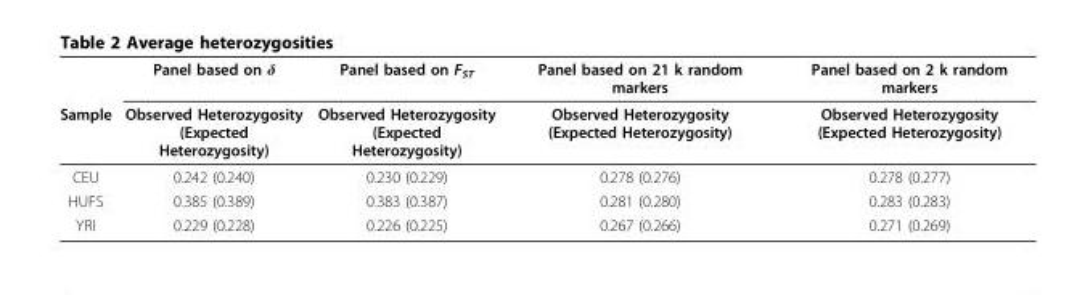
<table><thead><tr><td rowspan="2">Sample</td><td rowspan="2">Panel based on δ Observed Heterozygosity (Expected Heterozygosity)</td><td rowspan="2">Panel based on F<sub>ST</sub> Observed Heterozygosity (Expected Heterozygosity)</td><td rowspan="2">Panel based on 21 k random markers Observed Heterozygosity (Expected Heterozygosity)</td><td rowspan="2">Panel based on 2 k random markers Observed Heterozygosity (Expected Heterozygosity)</td></tr><tr></tr></thead><tbody><tr><td>CEU</td><td>0.242 (0.240)</td><td>0.230 (0.229)</td><td>0.278 (0.276)</td><td>0.278 (0.277)</td></tr><tr><td>HUFS</td><td>0.385 (0.389)</td><td>0.383 (0.387)</td><td>0.281 (0.280)</td><td>0.283 (0.283)</td></tr><tr><td>YRI</td><td>0.229 (0.228)</td><td>0.226 (0.225)</td><td>0.267 (0.266)</td><td>0.271 (0.269)</td></tr></tbody></table>